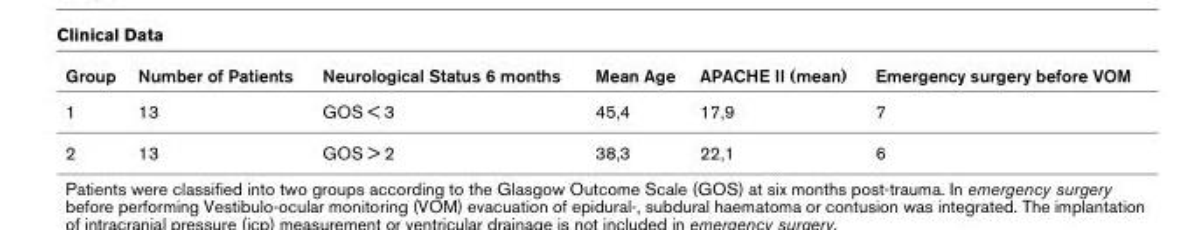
<table><thead><tr><td>Group</td><td>Number of Patients</td><td>Neurological Status 6 months</td><td>Mean Age</td><td>APACHE II (mean)</td><td>Emergency surgery before VOM</td></tr></thead><tbody><tr><td>1</td><td>13</td><td>GOS &lt; 3</td><td>45,4</td><td>17,9</td><td>7</td></tr><tr><td>2</td><td>13</td><td>GOS &gt; 2</td><td>38,3</td><td>22,1</td><td>6</td></tr></tbody></table>